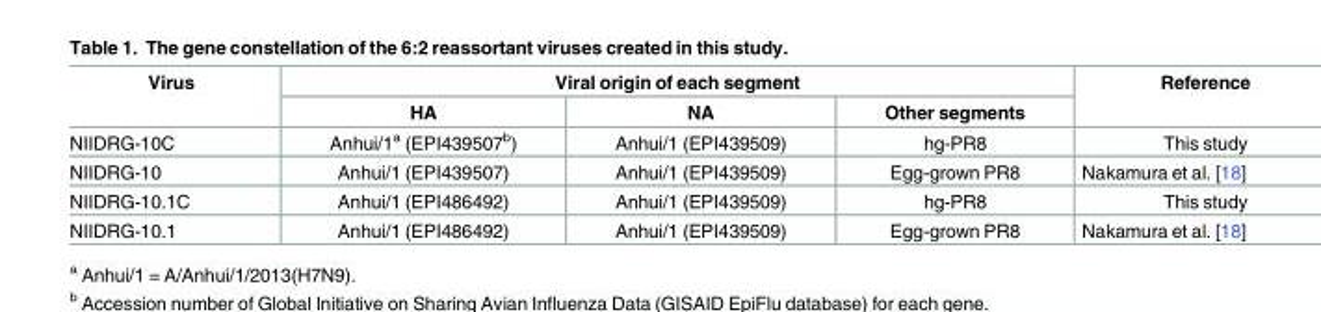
<table><thead><tr><td rowspan="2">Virus</td><td colspan="3">Viral origin of each segment</td><td rowspan="2">Reference</td></tr><tr><td>HA</td><td>NA</td><td>Other segments</td></tr></thead><tbody><tr><td>NIIDRG-10C</td><td>Anhui/1<sup>a</sup> (EPI439507<sup>b</sup>)</td><td>Anhui/1 (EPI439509)</td><td>hg-PR8</td><td>This study</td></tr><tr><td>NIIDRG-10</td><td>Anhui/1 (EPI439507)</td><td>Anhui/1 (EPI439509)</td><td>Egg-grown PR8</td><td>Nakamura et al. [18]</td></tr><tr><td>NIIDRG-10.1C</td><td>Anhui/1 (EPI486492)</td><td>Anhui/1 (EPI439509)</td><td>hg-PR8</td><td>This study</td></tr><tr><td>NIIDRG-10.1</td><td>Anhui/1 (EPI486492)</td><td>Anhui/1 (EPI439509)</td><td>Egg-grown PR8</td><td>Nakamura et al. [18]</td></tr></tbody></table>